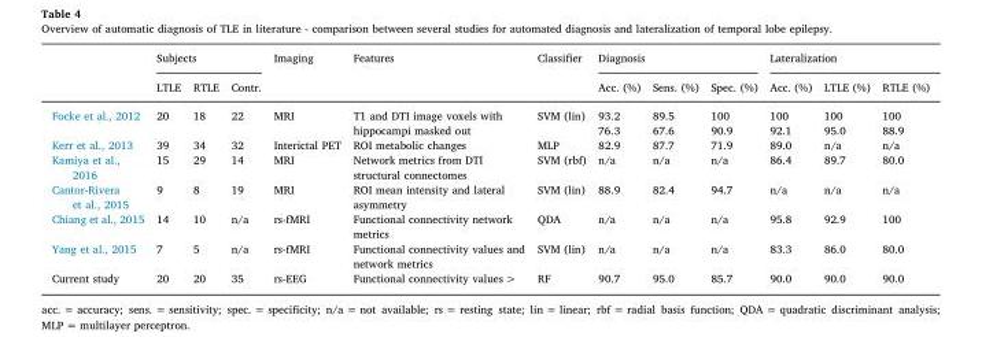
<table><thead><tr><td rowspan="2"></td><td colspan="3">Subjects</td><td rowspan="2">Imaging</td><td rowspan="2">Features</td><td rowspan="2">Classifier</td><td colspan="3">Diagnosis</td><td colspan="3">Lateralization</td></tr><tr><td>LTLE</td><td>RTLE</td><td>Contr.</td><td>Acc. (%)</td><td>Sens. (%)</td><td>Spec. (%)</td><td>Acc. (%)</td><td>LTLE (%)</td><td>RTLE (%)</td></tr></thead><tbody><tr><td rowspan="2">Focke et al., 2012</td><td rowspan="2">20</td><td rowspan="2">18</td><td rowspan="2">22</td><td rowspan="2">MRI</td><td rowspan="2">T1 and DTI image voxels with hippocampi masked out</td><td rowspan="2">SVM (lin)</td><td>93.2</td><td>89.5</td><td>100</td><td>100</td><td>100</td><td>100</td></tr><tr><td>76.3</td><td>67.6</td><td>90.9</td><td>92.1</td><td>95.0</td><td>88.9</td></tr><tr><td>Kerr et al., 2013</td><td>39</td><td>34</td><td>32</td><td>Interictal PET</td><td>ROI metabolic changes</td><td>MLP</td><td>82.9</td><td>87.7</td><td>71.9</td><td>89.0</td><td>n/a</td><td>n/a</td></tr><tr><td>Kamiya et al., 2016</td><td>15</td><td>29</td><td>14</td><td>MRI</td><td>Network metrics from DTI structural connectomes</td><td>SVM (rbf)</td><td>n/a</td><td>n/a</td><td>n/a</td><td>86.4</td><td>89.7</td><td>80.0</td></tr><tr><td>Cantor-Rivera et al., 2015</td><td>9</td><td>8</td><td>19</td><td>MRI</td><td>ROI mean intensity and lateral asymmetry</td><td>SVM (lin)</td><td>88.9</td><td>82.4</td><td>94.7</td><td>n/a</td><td>n/a</td><td>n/a</td></tr><tr><td>Chiang et al., 2015</td><td>14</td><td>10</td><td>n/a</td><td>rs-fMRI</td><td>Functional connectivity network metrics</td><td>QDA</td><td>n/a</td><td>n/a</td><td>n/a</td><td>95.8</td><td>92.9</td><td>100</td></tr><tr><td>Yang et al., 2015</td><td>7</td><td>5</td><td>n/a</td><td>rs-fMRI</td><td>Functional connectivity values and network metrics</td><td>SVM (lin)</td><td>n/a</td><td>n/a</td><td>n/a</td><td>83.3</td><td>86.0</td><td>80.0</td></tr><tr><td>Current study</td><td>20</td><td>20</td><td>35</td><td>rs-EEG</td><td>Functional connectivity values &gt;</td><td>RF</td><td>90.7</td><td>95.0</td><td>85.7</td><td>90.0</td><td>90.0</td><td>90.0</td></tr></tbody></table>